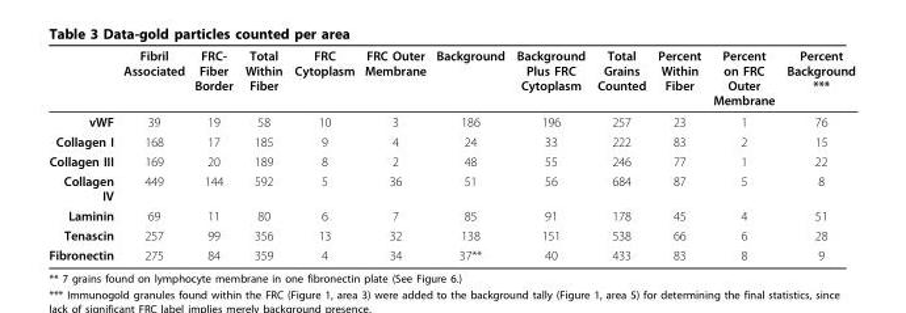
<table><thead><tr><td></td><td>Fibril Associated</td><td>FRC- Fiber Border</td><td>Total Within Fiber</td><td>FRC Cytoplasm</td><td>FRC Outer Membrane</td><td>Background</td><td>Background Plus FRC Cytoplasm</td><td>Total Grains Counted</td><td>Percent Within Fiber</td><td>Percent on FRC Outer Membrane</td><td>Percent Background ***</td></tr></thead><tbody><tr><td>vWF</td><td>39</td><td>19</td><td>58</td><td>10</td><td>3</td><td>186</td><td>196</td><td>257</td><td>23</td><td>1</td><td>76</td></tr><tr><td>Collagen I</td><td>168</td><td>17</td><td>185</td><td>9</td><td>4</td><td>24</td><td>33</td><td>222</td><td>83</td><td>2</td><td>15</td></tr><tr><td>Collagen III</td><td>169</td><td>20</td><td>189</td><td>8</td><td>2</td><td>48</td><td>55</td><td>246</td><td>77</td><td>1</td><td>22</td></tr><tr><td>Collagen IV</td><td>449</td><td>144</td><td>592</td><td>5</td><td>36</td><td>51</td><td>56</td><td>684</td><td>87</td><td>5</td><td>8</td></tr><tr><td>Laminin</td><td>69</td><td>11</td><td>80</td><td>6</td><td>7</td><td>85</td><td>91</td><td>178</td><td>45</td><td>4</td><td>51</td></tr><tr><td>Tenascin</td><td>257</td><td>99</td><td>356</td><td>13</td><td>32</td><td>138</td><td>151</td><td>538</td><td>66</td><td>6</td><td>28</td></tr><tr><td>Fibronectin</td><td>275</td><td>84</td><td>359</td><td>4</td><td>34</td><td>37**</td><td>40</td><td>433</td><td>83</td><td>8</td><td>9</td></tr></tbody></table>